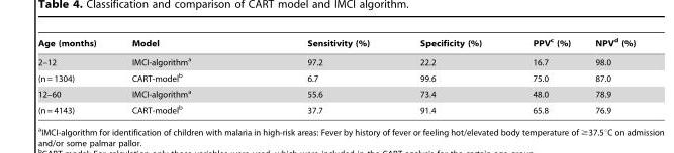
<table><thead><tr><td>Age (months)</td><td>Model</td><td>Sensitivity (%)</td><td>Specificity (%)</td><td>PPV<sup>c</sup> (%)</td><td>NPV<sup>d</sup> (%)</td></tr></thead><tbody><tr><td>2–12</td><td>IMCI-algorithm<sup>a</sup></td><td>97.2</td><td>22.2</td><td>16.7</td><td>98.0</td></tr><tr><td>(n = 1304)</td><td>CART-model<sup>b</sup></td><td>6.7</td><td>99.6</td><td>75.0</td><td>87.0</td></tr><tr><td>12–60</td><td>IMCI-algorithm<sup>a</sup></td><td>55.6</td><td>73.4</td><td>48.0</td><td>78.9</td></tr><tr><td>(n = 4143)</td><td>CART-model<sup>b</sup></td><td>37.7</td><td>91.4</td><td>65.8</td><td>76.9</td></tr></tbody></table>